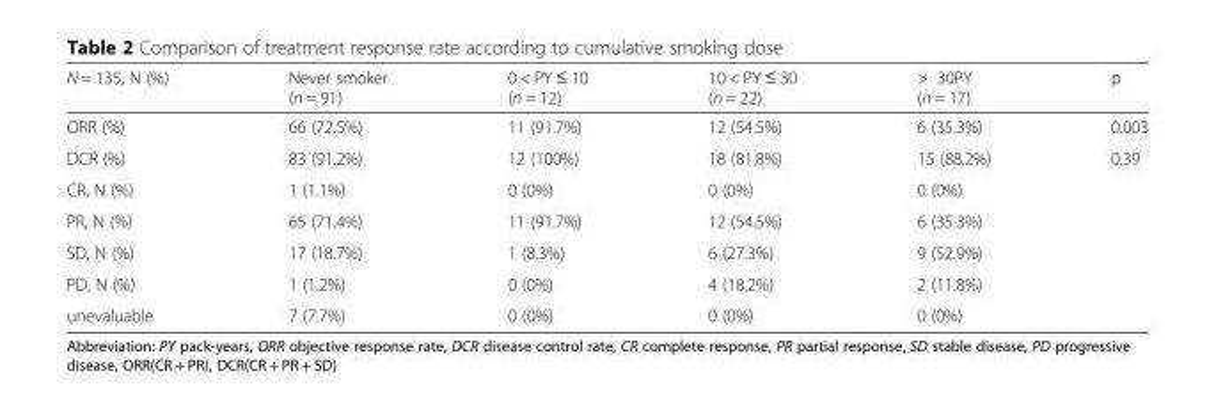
<table><thead><tr><td>N = 135, N (%)</td><td>Never smoker (n = 91)</td><td>0 &lt; PY ≤ 10 (n = 12)</td><td>10 &lt; PY ≤ 30 (n = 22)</td><td>&gt; 30PY (n = 17)</td><td>p</td></tr></thead><tbody><tr><td>ORR (%)</td><td>66 (72.5%)</td><td>11 (91.7%)</td><td>12 (54.5%)</td><td>6 (35.3%)</td><td>0.003</td></tr><tr><td>DCR (%)</td><td>83 (91.2%)</td><td>12 (100%)</td><td>18 (81.8%)</td><td>15 (88.2%)</td><td>0.39</td></tr><tr><td>CR, N (%)</td><td>1 (1.1%)</td><td>0 (0%)</td><td>0 (0%)</td><td>0 (0%)</td><td></td></tr><tr><td>PR, N (%)</td><td>65 (71.4%)</td><td>11 (91.7%)</td><td>12 (54.5%)</td><td>6 (35.3%)</td><td></td></tr><tr><td>SD, N (%)</td><td>17 (18.7%)</td><td>1 (8.3%)</td><td>6 (27.3%)</td><td>9 (52.9%)</td><td></td></tr><tr><td>PD, N (%)</td><td>1 (1.2%)</td><td>0 (0%)</td><td>4 (18.2%)</td><td>2 (11.8%)</td><td></td></tr><tr><td>unevaluable</td><td>7 (7.7%)</td><td>0 (0%)</td><td>0 (0%)</td><td>0 (0%)</td><td></td></tr></tbody></table>